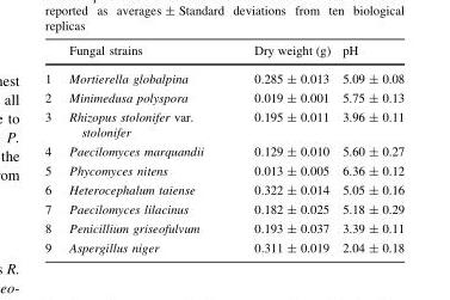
<table><thead><tr><td></td><td>Fungal strains</td><td>Dry weight (g)</td><td>pH</td></tr></thead><tbody><tr><td>1</td><td>Mortierella globalpina</td><td>0.285 ± 0.013</td><td>5.09 ± 0.08</td></tr><tr><td>2</td><td>Minimedusa polyspora</td><td>0.019 ± 0.001</td><td>5.75 ± 0.13</td></tr><tr><td>3</td><td>Rhizopus stolonifer var. stolonifer</td><td>0.195 ± 0.011</td><td>3.96 ± 0.11</td></tr><tr><td>4</td><td>Paecilomyces marquandii</td><td>0.129 ± 0.010</td><td>5.60 ± 0.27</td></tr><tr><td>5</td><td>Phycomyces nitens</td><td>0.013 ± 0.005</td><td>6.36 ± 0.12</td></tr><tr><td>6</td><td>Heterocephalum taiense</td><td>0.322 ± 0.014</td><td>5.05 ± 0.16</td></tr><tr><td>7</td><td>Paecilomyces lilacinus</td><td>0.182 ± 0.025</td><td>5.18 ± 0.29</td></tr><tr><td>8</td><td>Penicillium griseofulvum</td><td>0.193 ± 0.037</td><td>3.39 ± 0.11</td></tr><tr><td>9</td><td>Aspergillus niger</td><td>0.311 ± 0.019</td><td>2.04 ± 0.18</td></tr></tbody></table>